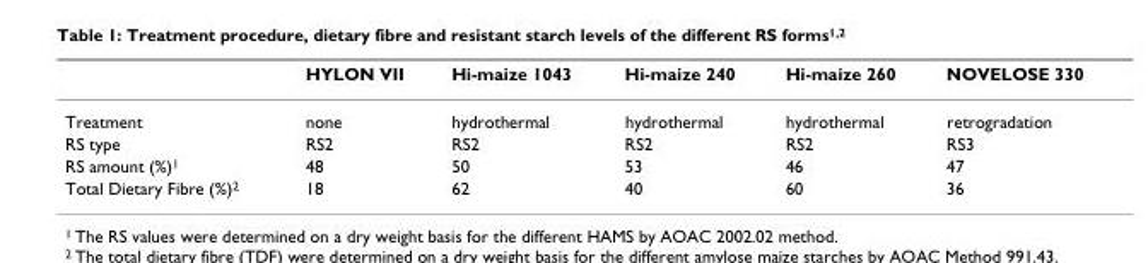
<table><thead><tr><td></td><td>HYLON VII</td><td>Hi-maize 1043</td><td>Hi-maize 240</td><td>Hi-maize 260</td><td>NOVELOSE 330</td></tr></thead><tbody><tr><td>Treatment</td><td>none</td><td>hydrothermal</td><td>hydrothermal</td><td>hydrothermal</td><td>retrogradation</td></tr><tr><td>RS type</td><td>RS2</td><td>RS2</td><td>RS2</td><td>RS2</td><td>RS3</td></tr><tr><td>RS amount (%)<sup>1</sup></td><td>48</td><td>50</td><td>53</td><td>46</td><td>47</td></tr><tr><td>Total Dietary Fibre (%)<sup>2</sup></td><td>18</td><td>62</td><td>40</td><td>60</td><td>36</td></tr></tbody></table>